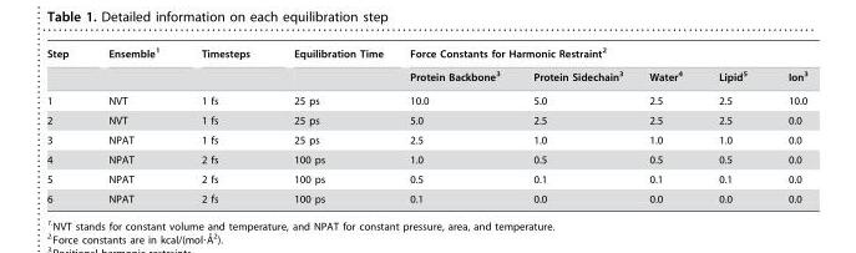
<table><thead><tr><td rowspan="2">Step</td><td rowspan="2">Ensemble<sup>1</sup></td><td rowspan="2">Timesteps</td><td rowspan="2">Equilibration Time</td><td colspan="5">Force Constants for Harmonic Restraint<sup>2</sup></td></tr><tr><td>Protein Backbone<sup>3</sup></td><td>Protein Sidechain<sup>3</sup></td><td>Water<sup>4</sup></td><td>Lipid<sup>5</sup></td><td>Ion<sup>3</sup></td></tr></thead><tbody><tr><td>1</td><td>NVT</td><td>1 fs</td><td>25 ps</td><td>10.0</td><td>5.0</td><td>2.5</td><td>2.5</td><td>10.0</td></tr><tr><td>2</td><td>NVT</td><td>1 fs</td><td>25 ps</td><td>5.0</td><td>2.5</td><td>2.5</td><td>2.5</td><td>0.0</td></tr><tr><td>3</td><td>NPAT</td><td>1 fs</td><td>25 ps</td><td>2.5</td><td>1.0</td><td>1.0</td><td>1.0</td><td>0.0</td></tr><tr><td>4</td><td>NPAT</td><td>2 fs</td><td>100 ps</td><td>1.0</td><td>0.5</td><td>0.5</td><td>0.5</td><td>0.0</td></tr><tr><td>5</td><td>NPAT</td><td>2 fs</td><td>100 ps</td><td>0.5</td><td>0.1</td><td>0.1</td><td>0.1</td><td>0.0</td></tr><tr><td>6</td><td>NPAT</td><td>2 fs</td><td>100 ps</td><td>0.1</td><td>0.0</td><td>0.0</td><td>0.0</td><td>0.0</td></tr></tbody></table>